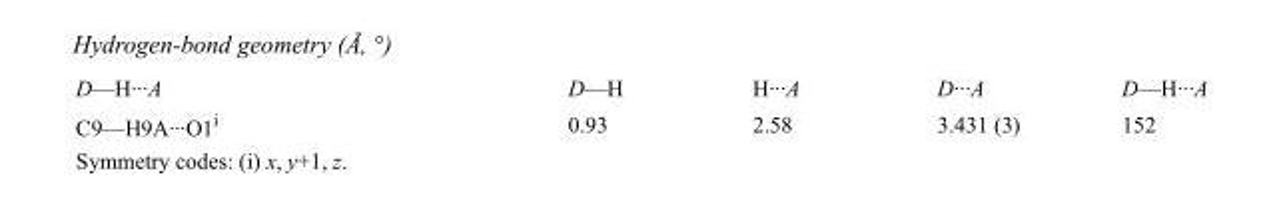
<table><tbody><tr><td>D—H···A</td><td>D—H</td><td>H···A</td><td>D···A</td><td>D—H···A</td></tr><tr><td>C9—H9A···O1<sup>i</sup></td><td>0.93</td><td>2.58</td><td>3.431 (3)</td><td>152</td></tr></tbody></table>